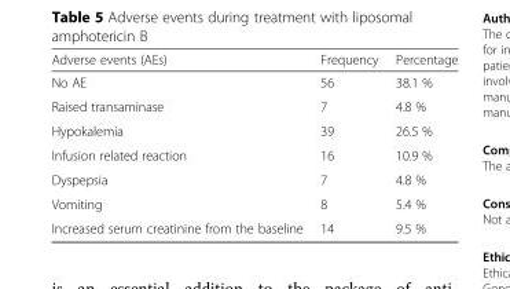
<table><thead><tr><td>Adverse events (AEs)</td><td>Frequency</td><td>Percentage</td></tr></thead><tbody><tr><td>No AE</td><td>56</td><td>38.1 %</td></tr><tr><td>Raised transaminase</td><td>7</td><td>4.8 %</td></tr><tr><td>Hypokalemia</td><td>39</td><td>26.5 %</td></tr><tr><td>Infusion related reaction</td><td>16</td><td>10.9 %</td></tr><tr><td>Dyspepsia</td><td>7</td><td>4.8 %</td></tr><tr><td>Vomiting</td><td>8</td><td>5.4 %</td></tr><tr><td>Increased serum creatinine from the baseline</td><td>14</td><td>9.5 %</td></tr></tbody></table>